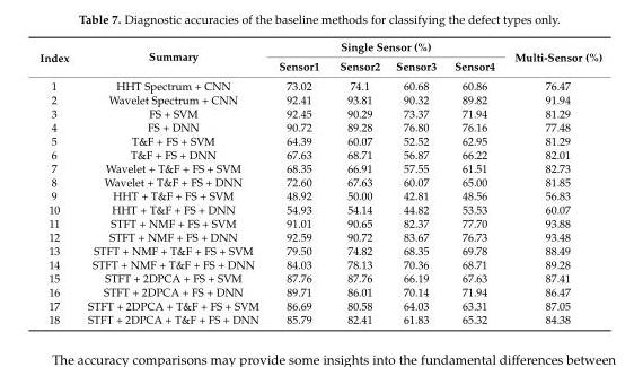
<table><thead><tr><td rowspan="2">Index</td><td rowspan="2">Summary</td><td colspan="4">Single Sensor (%)</td><td rowspan="2">Multi-Sensor (%)</td></tr><tr><td>Sensor1</td><td>Sensor2</td><td>Sensor3</td><td>Sensor4</td></tr></thead><tbody><tr><td>1</td><td>HHT Spectrum + CNN</td><td>73.02</td><td>74.1</td><td>60.68</td><td>60.86</td><td>76.47</td></tr><tr><td>2</td><td>Wavelet Spectrum + CNN</td><td>92.41</td><td>93.81</td><td>90.32</td><td>89.82</td><td>91.94</td></tr><tr><td>3</td><td>FS + SVM</td><td>92.45</td><td>90.29</td><td>73.37</td><td>71.94</td><td>81.29</td></tr><tr><td>4</td><td>FS + DNN</td><td>90.72</td><td>89.28</td><td>76.80</td><td>76.16</td><td>77.48</td></tr><tr><td>5</td><td>T&amp;F + FS + SVM</td><td>64.39</td><td>60.07</td><td>52.52</td><td>62.95</td><td>81.29</td></tr><tr><td>6</td><td>T&amp;F + FS + DNN</td><td>67.63</td><td>68.71</td><td>56.87</td><td>66.22</td><td>82.01</td></tr><tr><td>7</td><td>Wavelet + T&amp;F + FS + SVM</td><td>68.35</td><td>66.91</td><td>57.55</td><td>61.51</td><td>82.73</td></tr><tr><td>8</td><td>Wavelet + T&amp;F + FS + DNN</td><td>72.60</td><td>67.63</td><td>60.07</td><td>65.00</td><td>81.85</td></tr><tr><td>9</td><td>HHT + T&amp;F + FS + SVM</td><td>48.92</td><td>50.00</td><td>42.81</td><td>48.56</td><td>56.83</td></tr><tr><td>10</td><td>HHT + T&amp;F + FS + DNN</td><td>54.93</td><td>54.14</td><td>44.82</td><td>53.53</td><td>60.07</td></tr><tr><td>11</td><td>STFT + NMF + FS + SVM</td><td>91.01</td><td>90.65</td><td>82.37</td><td>77.70</td><td>93.88</td></tr><tr><td>12</td><td>STFT + NMF + FS + DNN</td><td>92.59</td><td>90.72</td><td>83.67</td><td>76.73</td><td>93.48</td></tr><tr><td>13</td><td>STFT + NMF + T&amp;F + FS + SVM</td><td>79.50</td><td>74.82</td><td>68.35</td><td>69.78</td><td>88.49</td></tr><tr><td>14</td><td>STFT + NMF + T&amp;F + FS + DNN</td><td>84.03</td><td>78.13</td><td>70.36</td><td>68.71</td><td>89.28</td></tr><tr><td>15</td><td>STFT + 2DPCA + FS + SVM</td><td>87.76</td><td>87.76</td><td>66.19</td><td>67.63</td><td>87.41</td></tr><tr><td>16</td><td>STFT + 2DPCA + FS + DNN</td><td>89.71</td><td>86.01</td><td>70.14</td><td>71.94</td><td>86.47</td></tr><tr><td>17</td><td>STFT + 2DPCA + T&amp;F + FS + SVM</td><td>86.69</td><td>80.58</td><td>64.03</td><td>63.31</td><td>87.05</td></tr><tr><td>18</td><td>STFT + 2DPCA + T&amp;F + FS + DNN</td><td>85.79</td><td>82.41</td><td>61.83</td><td>65.32</td><td>84.38</td></tr></tbody></table>